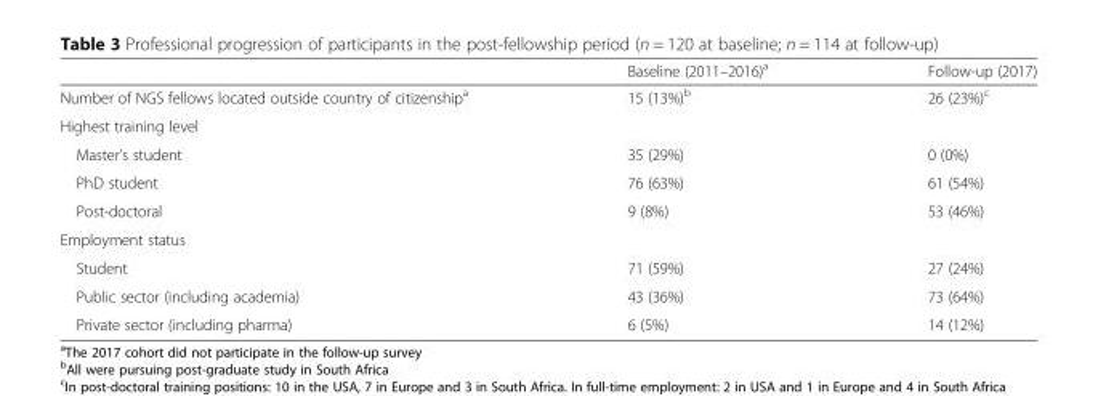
<table><thead><tr><td></td><td>Baseline (2011–2016)<sup>a</sup></td><td>Follow-up (2017)</td></tr></thead><tbody><tr><td>Number of NGS fellows located outside country of citizenship<sup>a</sup></td><td>15 (13%)<sup>b</sup></td><td>26 (23%)<sup>c</sup></td></tr><tr><td colspan="3">Highest training level</td></tr><tr><td>Master’s student</td><td>35 (29%)</td><td>0 (0%)</td></tr><tr><td>PhD student</td><td>76 (63%)</td><td>61 (54%)</td></tr><tr><td>Post-doctoral</td><td>9 (8%)</td><td>53 (46%)</td></tr><tr><td colspan="3">Employment status</td></tr><tr><td>Student</td><td>71 (59%)</td><td>27 (24%)</td></tr><tr><td>Public sector (including academia)</td><td>43 (36%)</td><td>73 (64%)</td></tr><tr><td>Private sector (including pharma)</td><td>6 (5%)</td><td>14 (12%)</td></tr></tbody></table>